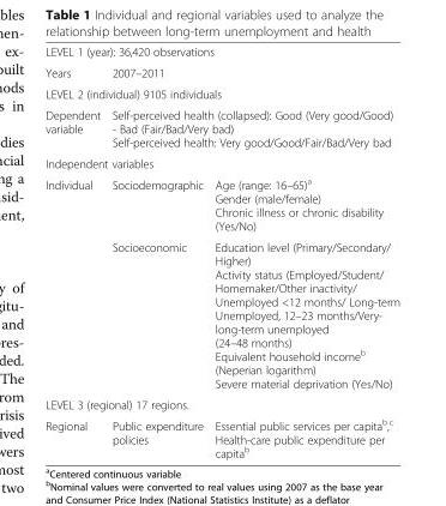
<table><tbody><tr><td colspan="3">LEVEL 1 (year): 36,420 observations</td></tr><tr><td>Years</td><td colspan="2">2007–2011</td></tr><tr><td colspan="3">LEVEL 2 (individual) 9105 individuals</td></tr><tr><td>Dependent variable</td><td colspan="2">Self-perceived health (collapsed): Good (Very good/Good) - Bad (Fair/Bad/Very bad) Self-perceived health: Very good/Good/Fair/Bad/Very bad</td></tr><tr><td colspan="3">Independent variables</td></tr><tr><td rowspan="2">Individual</td><td>Sociodemographic</td><td>Age (range: 16–65)<sup>a</sup> Gender (male/female) Chronic illness or chronic disability (Yes/No)</td></tr><tr><td>Socioeconomic</td><td>Education level (Primary/Secondary/ Higher) Activity status (Employed/Student/ Homemaker/Other inactivity/ Unemployed &lt;12 months/ Long-term Unemployed, 12–23 months/Very- long-term unemployed (24–48 months) Equivalent household income<sup>b</sup> (Neperian logarithm) Severe material deprivation (Yes/No)</td></tr><tr><td colspan="3">LEVEL 3 (regional) 17 regions.</td></tr><tr><td>Regional</td><td>Public expenditure policies</td><td>Essential public services per capita<sup>b</sup>,<sup>c</sup> Health-care public expenditure per capita<sup>b</sup></td></tr></tbody></table>